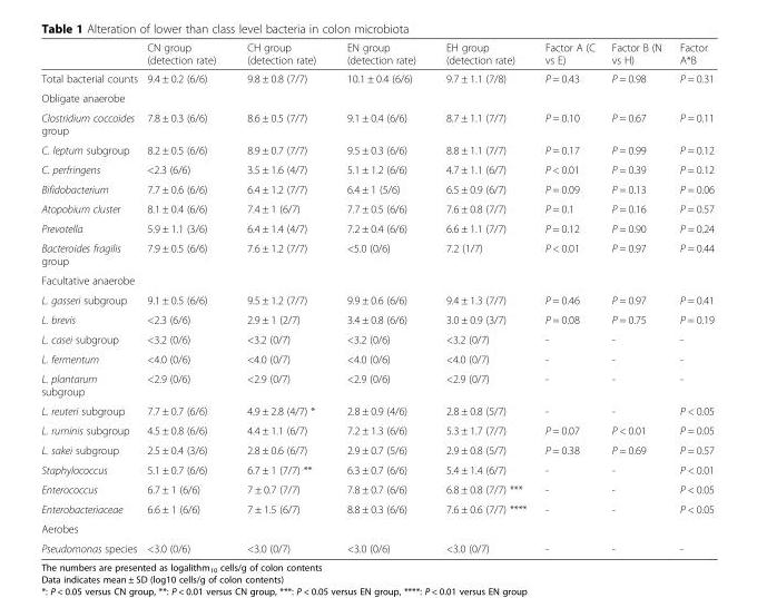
<table><thead><tr><td></td><td>CN group (detection rate)</td><td>CH group (detection rate)</td><td>EN group (detection rate)</td><td>EH group (detection rate)</td><td>Factor A (C vs E)</td><td>Factor B (N vs H)</td><td>Factor A*B</td></tr></thead><tbody><tr><td>Total bacterial counts</td><td>9.4 ± 0.2 (6/6)</td><td>9.8 ± 0.8 (7/7)</td><td>10.1 ± 0.4 (6/6)</td><td>9.7 ± 1.1 (7/8)</td><td>P = 0.43</td><td>P = 0.98</td><td>P = 0.31</td></tr><tr><td colspan="8">Obligate anaerobe</td></tr><tr><td>Clostridium coccoides group</td><td>7.8 ± 0.3 (6/6)</td><td>8.6 ± 0.5 (7/7)</td><td>9.1 ± 0.4 (6/6)</td><td>8.7 ± 1.1 (7/7)</td><td>P = 0.10</td><td>P = 0.67</td><td>P = 0.11</td></tr><tr><td>C. leptum subgroup</td><td>8.2 ± 0.5 (6/6)</td><td>8.9 ± 0.7 (7/7)</td><td>9.5 ± 0.3 (6/6)</td><td>8.8 ± 1.1 (7/7)</td><td>P = 0.17</td><td>P = 0.99</td><td>P = 0.12</td></tr><tr><td>C. perfringens</td><td>&lt;2.3 (6/6)</td><td>3.5 ± 1.6 (4/7)</td><td>5.1 ± 1.2 (6/6)</td><td>4.7 ± 1.1 (6/7)</td><td>P &lt; 0.01</td><td>P = 0.39</td><td>P = 0.12</td></tr><tr><td>Bifidobacterium</td><td>7.7 ± 0.6 (6/6)</td><td>6.4 ± 1.2 (7/7)</td><td>6.4 ± 1 (5/6)</td><td>6.5 ± 0.9 (6/7)</td><td>P = 0.09</td><td>P = 0.13</td><td>P = 0.06</td></tr><tr><td>Atopobium cluster</td><td>8.1 ± 0.4 (6/6)</td><td>7.4 ± 1 (6/7)</td><td>7.7 ± 0.5 (6/6)</td><td>7.6 ± 0.8 (7/7)</td><td>P = 0.1</td><td>P = 0.16</td><td>P = 0.57</td></tr><tr><td>Prevotella</td><td>5.9 ± 1.1 (3/6)</td><td>6.4 ± 1.4 (4/7)</td><td>7.2 ± 0.4 (6/6)</td><td>6.6 ± 1.1 (7/7)</td><td>P = 0.12</td><td>P = 0.90</td><td>P = 0.24</td></tr><tr><td>Bacteroides fragilis group</td><td>7.9 ± 0.5 (6/6)</td><td>7.6 ± 1.2 (7/7)</td><td>&lt;5.0 (0/6)</td><td>7.2 (1/7)</td><td>P &lt; 0.01</td><td>P = 0.97</td><td>P = 0.44</td></tr><tr><td colspan="8">Facultative anaerobe</td></tr><tr><td>L. gasseri subgroup</td><td>9.1 ± 0.5 (6/6)</td><td>9.5 ± 1.2 (7/7)</td><td>9.9 ± 0.6 (6/6)</td><td>9.4 ± 1.3 (7/7)</td><td>P = 0.46</td><td>P = 0.97</td><td>P = 0.41</td></tr><tr><td>L. brevis</td><td>&lt;2.3 (6/6)</td><td>2.9 ± 1 (2/7)</td><td>3.4 ± 0.8 (6/6)</td><td>3.0 ± 0.9 (3/7)</td><td>P = 0.08</td><td>P = 0.75</td><td>P = 0.19</td></tr><tr><td>L. casei subgroup</td><td>&lt;3.2 (0/6)</td><td>&lt;3.2 (0/7)</td><td>&lt;3.2 (0/6)</td><td>&lt;3.2 (0/7)</td><td>-</td><td>-</td><td>-</td></tr><tr><td>L. fermentum</td><td>&lt;4.0 (0/6)</td><td>&lt;4.0 (0/7)</td><td>&lt;4.0 (0/6)</td><td>&lt;4.0 (0/7)</td><td>-</td><td>-</td><td>-</td></tr><tr><td>L. plantarum subgroup</td><td>&lt;2.9 (0/6)</td><td>&lt;2.9 (0/7)</td><td>&lt;2.9 (0/6)</td><td>&lt;2.9 (0/7)</td><td>-</td><td>-</td><td>-</td></tr><tr><td>L. reuteri subgroup</td><td>7.7 ± 0.7 (6/6)</td><td>4.9 ± 2.8 (4/7) *</td><td>2.8 ± 0.9 (4/6)</td><td>2.8 ± 0.8 (5/7)</td><td>-</td><td>-</td><td>P &lt; 0.05</td></tr><tr><td>L. ruminis subgroup</td><td>4.5 ± 0.8 (6/6)</td><td>4.4 ± 1.1 (6/7)</td><td>7.2 ± 1.3 (6/6)</td><td>5.3 ± 1.7 (7/7)</td><td>P = 0.07</td><td>P &lt; 0.01</td><td>P = 0.05</td></tr><tr><td>L. sakei subgroup</td><td>2.5 ± 0.4 (3/6)</td><td>2.8 ± 0.6 (6/7)</td><td>2.9 ± 0.7 (5/6)</td><td>2.9 ± 0.8 (5/7)</td><td>P = 0.38</td><td>P = 0.69</td><td>P = 0.57</td></tr><tr><td>Staphylococcus</td><td>5.1 ± 0.7 (6/6)</td><td>6.7 ± 1 (7/7) **</td><td>6.3 ± 0.7 (6/6)</td><td>5.4 ± 1.4 (6/7)</td><td>-</td><td>-</td><td>P &lt; 0.01</td></tr><tr><td>Enterococcus</td><td>6.7 ± 1 (6/6)</td><td>7 ± 0.7 (7/7)</td><td>7.8 ± 0.7 (6/6)</td><td>6.8 ± 0.8 (7/7) ***</td><td>-</td><td>-</td><td>P &lt; 0.05</td></tr><tr><td>Enterobacteriaceae</td><td>6.6 ± 1 (6/6)</td><td>7 ± 1.5 (6/7)</td><td>8.8 ± 0.3 (6/6)</td><td>7.6 ± 0.6 (7/7) ****</td><td>-</td><td>-</td><td>P &lt; 0.05</td></tr><tr><td colspan="8">Aerobes</td></tr><tr><td>Pseudomonas species</td><td>&lt;3.0 (0/6)</td><td>&lt;3.0 (0/7)</td><td>&lt;3.0 (0/6)</td><td>&lt;3.0 (0/7)</td><td>-</td><td>-</td><td>-</td></tr></tbody></table>